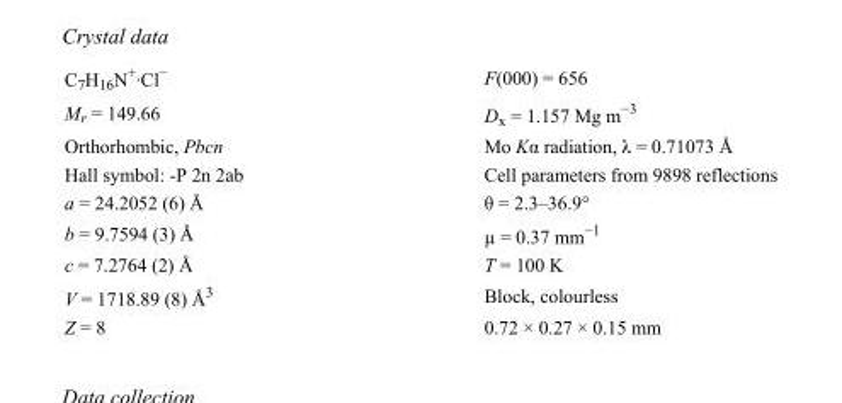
<table><tbody><tr><td>C<sub>7</sub>H<sub>16</sub>N<sup>+</sup>·Cl<sup>−</sup></td><td>F(000) = 656</td></tr><tr><td>M<sub>r</sub> = 149.66</td><td>D<sub>x</sub> = 1.157 Mg m<sup>−3</sup></td></tr><tr><td>Orthorhombic, Pbcn</td><td>Mo Kα radiation, λ = 0.71073 Å</td></tr><tr><td>Hall symbol: -P 2n 2ab</td><td>Cell parameters from 9898 reflections</td></tr><tr><td>a = 24.2052 (6) Å</td><td>θ = 2.3–36.9°</td></tr><tr><td>b = 9.7594 (3) Å</td><td>µ = 0.37 mm<sup>−1</sup></td></tr><tr><td>c = 7.2764 (2) Å</td><td>T = 100 K</td></tr><tr><td>V = 1718.89 (8) Å<sup>3</sup></td><td>Block, colourless</td></tr><tr><td>Z = 8</td><td>0.72 × 0.27 × 0.15 mm</td></tr></tbody></table>